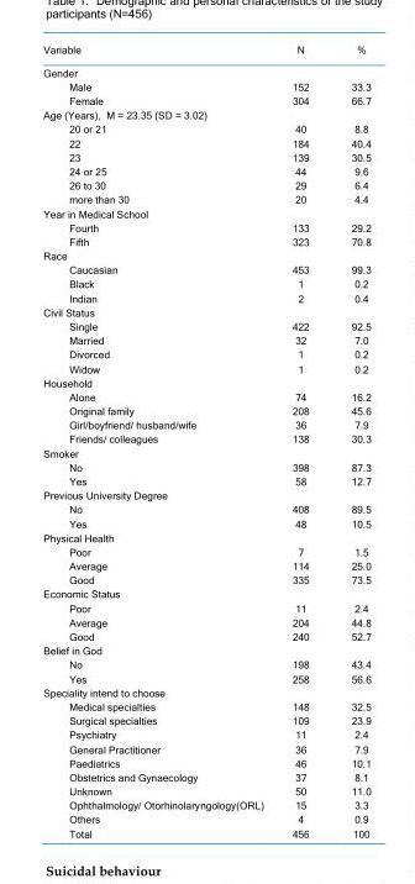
<table><thead><tr><td rowspan="2" colspan="2">Variable Gender</td><td rowspan="3">N 152</td><td rowspan="3">% 33.3</td></tr><tr></tr><tr><td></td><td>Male</td></tr></thead><tbody><tr><td></td><td>Female</td><td>304</td><td>66.7</td></tr><tr><td colspan="4">Age (Years), M = 23.35 (SD = 3.02)</td></tr><tr><td></td><td>20 or 21</td><td>40</td><td>8.8</td></tr><tr><td></td><td>22</td><td>184</td><td>40.4</td></tr><tr><td></td><td>23</td><td>139</td><td>30.5</td></tr><tr><td></td><td>24 or 25</td><td>44</td><td>9.6</td></tr><tr><td></td><td>26 to 30</td><td>29</td><td>6.4</td></tr><tr><td></td><td>more than 30</td><td>20</td><td>4.4</td></tr><tr><td colspan="4">Year in Medical School</td></tr><tr><td></td><td>Fourth</td><td>133</td><td>29.2</td></tr><tr><td></td><td>Fifth</td><td>323</td><td>70.8</td></tr><tr><td colspan="4">Race</td></tr><tr><td></td><td>Caucasian</td><td>453</td><td>99.3</td></tr><tr><td></td><td>Black</td><td>1</td><td>0.2</td></tr><tr><td></td><td>Indian</td><td>2</td><td>0.4</td></tr><tr><td colspan="4">Civil Status</td></tr><tr><td></td><td>Single</td><td>422</td><td>92.5</td></tr><tr><td></td><td>Married</td><td>32</td><td>7.0</td></tr><tr><td></td><td>Divorced</td><td>1</td><td>0.2</td></tr><tr><td></td><td>Widow</td><td>1</td><td>0.2</td></tr><tr><td colspan="4">Household</td></tr><tr><td></td><td>Alone</td><td>74</td><td>16.2</td></tr><tr><td></td><td>Original family</td><td>208</td><td>45.6</td></tr><tr><td></td><td>Girl/boyfriend/ husband/wife</td><td>36</td><td>7.9</td></tr><tr><td></td><td>Friends/ colleagues</td><td>138</td><td>30.3</td></tr><tr><td colspan="4">Smoker</td></tr><tr><td></td><td>No</td><td>398</td><td>87.3</td></tr><tr><td></td><td>Yes</td><td>58</td><td>12.7</td></tr><tr><td colspan="4">Previous University Degree</td></tr><tr><td></td><td>No</td><td>408</td><td>89.5</td></tr><tr><td></td><td>Yes</td><td>48</td><td>10.5</td></tr><tr><td colspan="4">Physical Health</td></tr><tr><td></td><td>Poor</td><td>7</td><td>1.5</td></tr><tr><td></td><td>Average</td><td>114</td><td>25.0</td></tr><tr><td></td><td>Good</td><td>335</td><td>73.5</td></tr><tr><td colspan="4">Economic Status</td></tr><tr><td></td><td>Poor</td><td>11</td><td>2.4</td></tr><tr><td></td><td>Average</td><td>204</td><td>44.8</td></tr><tr><td></td><td>Good</td><td>240</td><td>52.7</td></tr><tr><td colspan="4">Belief in God</td></tr><tr><td></td><td>No</td><td>198</td><td>43.4</td></tr><tr><td></td><td>Yes</td><td>258</td><td>56.6</td></tr><tr><td colspan="4">Speciality intend to choose</td></tr><tr><td></td><td>Medical specialties</td><td>148</td><td>32.5</td></tr><tr><td></td><td>Surgical specialties</td><td>109</td><td>23.9</td></tr><tr><td></td><td>Psychiatry</td><td>11</td><td>2.4</td></tr><tr><td></td><td>General Practitioner</td><td>36</td><td>7.9</td></tr><tr><td></td><td>Paediatrics</td><td>46</td><td>10.1</td></tr><tr><td></td><td>Obstetrics and Gynaecology</td><td>37</td><td>8.1</td></tr><tr><td></td><td>Unknown</td><td>50</td><td>11.0</td></tr><tr><td></td><td>Ophthalmology/ Otorhinolaryngology(ORL)</td><td>15</td><td>3.3</td></tr><tr><td></td><td>Others</td><td>4</td><td>0.9</td></tr><tr><td></td><td>Total</td><td>456</td><td>100</td></tr></tbody></table>